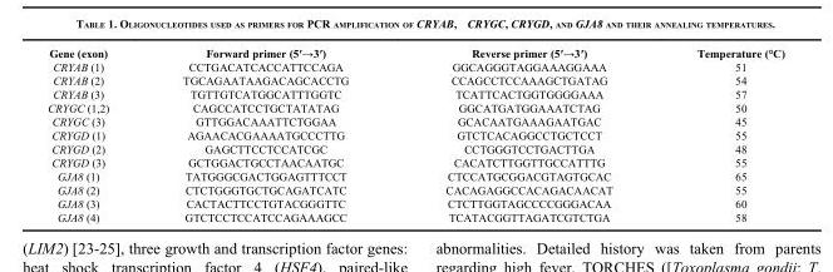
<table><thead><tr><td>Gene (exon)</td><td>Forward primer (5′→3′)</td><td>Reverse primer (5′→3′)</td><td>Temperature (°C)</td></tr></thead><tbody><tr><td>CRYAB (1)</td><td>CCTGACATCACCATTCCAGA</td><td>GGCAGGGTAGGAAAGGAAA</td><td>51</td></tr><tr><td>CRYAB (2)</td><td>TGCAGAATAAGACAGCACCTG</td><td>CCAGCCTCCAAAGCTGATAG</td><td>54</td></tr><tr><td>CRYAB (3)</td><td>TGTTGTCATGGCATTTGGTC</td><td>TCATTCACTGGTGGGGAAA</td><td>57</td></tr><tr><td>CRYGC (1,2)</td><td>CAGCCATCCTGCTATATAG</td><td>GGCATGATGGAAATCTAG</td><td>50</td></tr><tr><td>CRYGC (3)</td><td>GTTGGACAAATTCTGGAA</td><td>GCACAATGAAAGAATGAC</td><td>45</td></tr><tr><td>CRYGD (1)</td><td>AGAACACGAAAATGCCCTTG</td><td>GTCTCACAGGCCTGCTCCT</td><td>55</td></tr><tr><td>CRYGD (2)</td><td>GAGCTTCCTCCATCGC</td><td>CCTGGGTCCTGACTTGA</td><td>48</td></tr><tr><td>CRYGD (3)</td><td>GCTGGACTGCCTAACAATGC</td><td>CACATCTTGGTTGCCATTTG</td><td>55</td></tr><tr><td>GJA8 (1)</td><td>TATGGGCGACTGGAGTTTCCT</td><td>CTCCATGCGGACGTAGTGCAC</td><td>65</td></tr><tr><td>GJA8 (2)</td><td>CTCTGGGTGCTGCAGATCATC</td><td>CACAGAGGCCACAGACAACAT</td><td>55</td></tr><tr><td>GJA8 (3)</td><td>CACTACTTCCTGTACGGGTTC</td><td>CTCTTGGTAGCCCCGGGACAA</td><td>60</td></tr><tr><td>GJA8 (4)</td><td>GTCTCCTCCATCCAGAAAGCC</td><td>TCATACGGTTAGATCGTCTGA</td><td>58</td></tr></tbody></table>